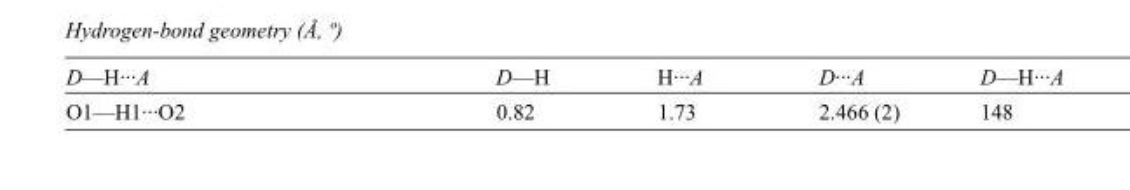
<table><tbody><tr><td>D—H···A</td><td>D—H</td><td>H···A</td><td>D···A</td><td>D—H···A</td></tr><tr><td>O1—H1···O2</td><td>0.82</td><td>1.73</td><td>2.466 (2)</td><td>148</td></tr></tbody></table>